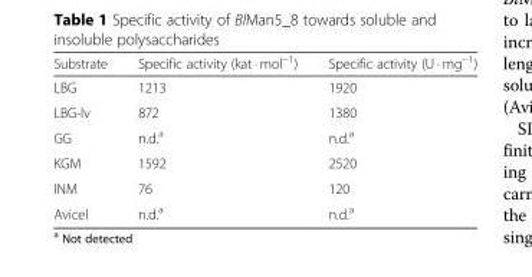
<table><thead><tr><td>Substrate</td><td>Specific activity (kat · mol<sup>−1</sup>)</td><td>Specific activity (U · mg<sup>−1</sup>)</td></tr></thead><tbody><tr><td>LBG</td><td>1213</td><td>1920</td></tr><tr><td>LBG-lv</td><td>872</td><td>1380</td></tr><tr><td>GG</td><td>n.d.<sup>a</sup></td><td>n.d.<sup>a</sup></td></tr><tr><td>KGM</td><td>1592</td><td>2520</td></tr><tr><td>INM</td><td>76</td><td>120</td></tr><tr><td>Avicel</td><td>n.d.<sup>a</sup></td><td>n.d.<sup>a</sup></td></tr></tbody></table>